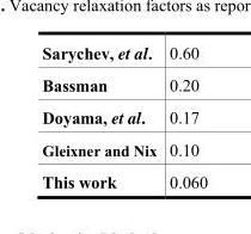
<table><tbody><tr><td>Sarychev, et al.</td><td>0.60</td></tr><tr><td>Bassman</td><td>0.20</td></tr><tr><td>Doyama, et al.</td><td>0.17</td></tr><tr><td>Gleixner and Nix</td><td>0.10</td></tr><tr><td>This work</td><td>0.060</td></tr></tbody></table>